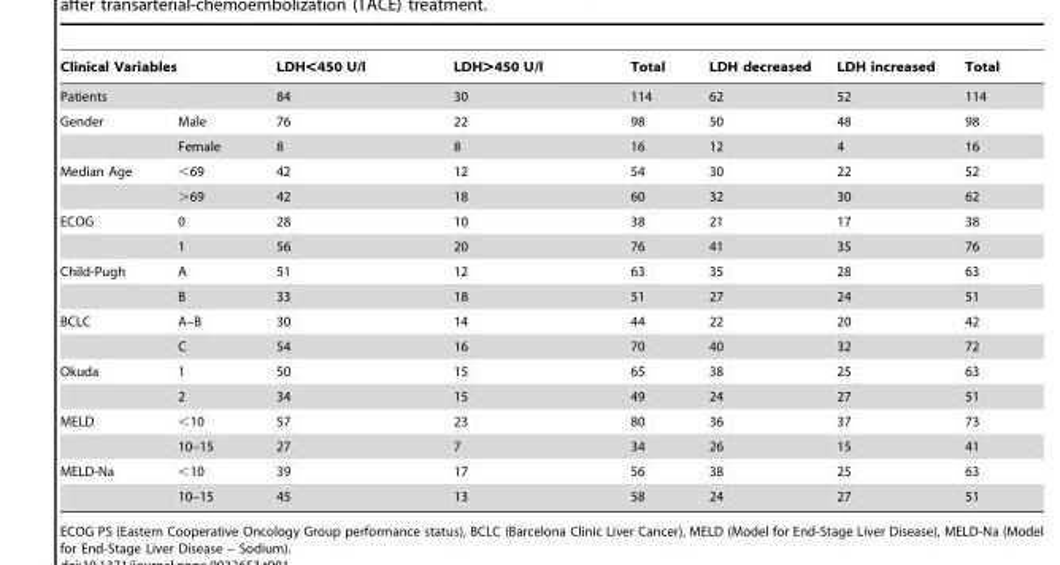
<table><thead><tr><td rowspan="2" colspan="2">Clinical Variables Patients</td><td rowspan="3">LDH&lt;450 U/l 84 76</td><td rowspan="3">LDH&gt;450 U/l 30 22</td><td rowspan="3">Total 114 98</td><td rowspan="3">LDH decreased 62 50</td><td rowspan="3">LDH increased 52 48</td><td rowspan="3">Total 114 98</td></tr><tr></tr><tr><td>Gender</td><td>Male</td></tr></thead><tbody><tr><td></td><td>Female</td><td>8</td><td>8</td><td>16</td><td>12</td><td>4</td><td>16</td></tr><tr><td rowspan="2">Median Age</td><td>&lt;69</td><td>42</td><td>12</td><td>54</td><td>30</td><td>22</td><td>52</td></tr><tr><td>&gt;69</td><td>42</td><td>18</td><td>60</td><td>32</td><td>30</td><td>62</td></tr><tr><td rowspan="2">ECOG</td><td>0</td><td>28</td><td>10</td><td>38</td><td>21</td><td>17</td><td>38</td></tr><tr><td>1</td><td>56</td><td>20</td><td>76</td><td>41</td><td>35</td><td>76</td></tr><tr><td rowspan="2">Child-Pugh</td><td>A</td><td>51</td><td>12</td><td>63</td><td>35</td><td>28</td><td>63</td></tr><tr><td>B</td><td>33</td><td>18</td><td>51</td><td>27</td><td>24</td><td>51</td></tr><tr><td rowspan="2">BCLC</td><td>A–B</td><td>30</td><td>14</td><td>44</td><td>22</td><td>20</td><td>42</td></tr><tr><td>C</td><td>54</td><td>16</td><td>70</td><td>40</td><td>32</td><td>72</td></tr><tr><td rowspan="2">Okuda</td><td>1</td><td>50</td><td>15</td><td>65</td><td>38</td><td>25</td><td>63</td></tr><tr><td>2</td><td>34</td><td>15</td><td>49</td><td>24</td><td>27</td><td>51</td></tr><tr><td rowspan="2">MELD</td><td>&lt;10</td><td>57</td><td>23</td><td>80</td><td>36</td><td>37</td><td>73</td></tr><tr><td>10–15</td><td>27</td><td>7</td><td>34</td><td>26</td><td>15</td><td>41</td></tr><tr><td rowspan="2">MELD-Na</td><td>&lt;10</td><td>39</td><td>17</td><td>56</td><td>38</td><td>25</td><td>63</td></tr><tr><td>10–15</td><td>45</td><td>13</td><td>58</td><td>24</td><td>27</td><td>51</td></tr></tbody></table>